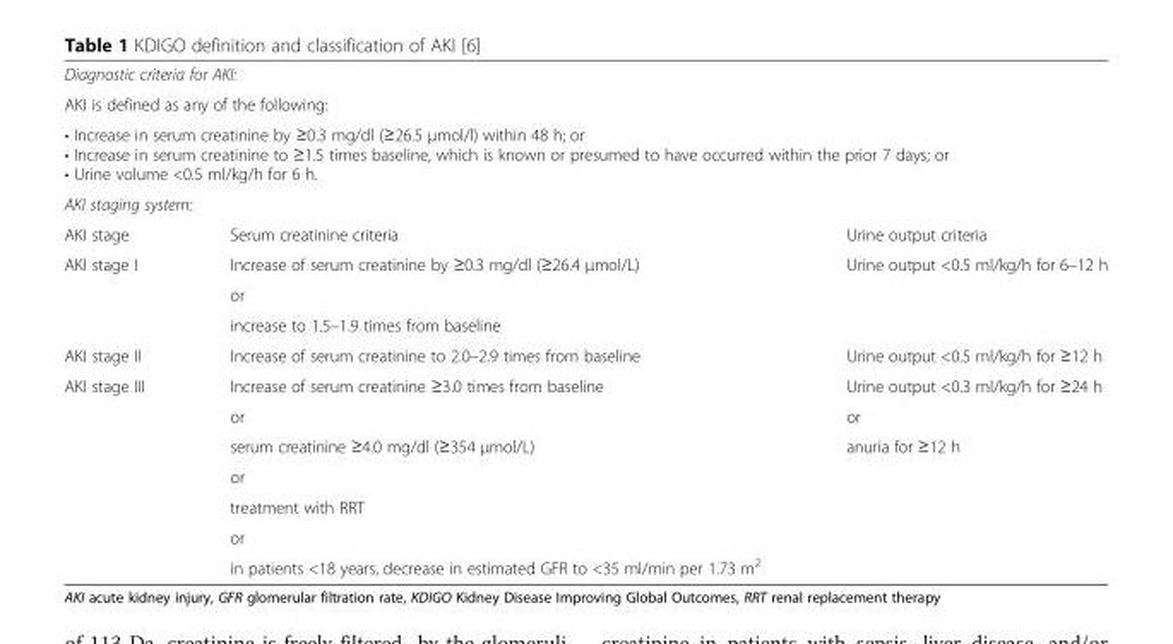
<table><tbody><tr><td colspan="3">Diagnostic criteria for AKI:</td></tr><tr><td colspan="3">AKI is defined as any of the following:</td></tr><tr><td colspan="3">• Increase in serum creatinine by ≥0.3 mg/dl (≥26.5 μmol/l) within 48 h; or • Increase in serum creatinine to ≥1.5 times baseline, which is known or presumed to have occurred within the prior 7 days; or • Urine volume &lt;0.5 ml/kg/h for 6 h.</td></tr><tr><td colspan="3">AKI staging system:</td></tr><tr><td>AKI stage</td><td>Serum creatinine criteria</td><td>Urine output criteria</td></tr><tr><td rowspan="3">AKI stage I</td><td>Increase of serum creatinine by ≥0.3 mg/dl (≥26.4 μmol/L)</td><td rowspan="3">Urine output &lt;0.5 ml/kg/h for 6–12 h</td></tr><tr><td>or</td></tr><tr><td>increase to 1.5–1.9 times from baseline</td></tr><tr><td>AKI stage II</td><td>Increase of serum creatinine to 2.0–2.9 times from baseline</td><td>Urine output &lt;0.5 ml/kg/h for ≥12 h</td></tr><tr><td rowspan="7">AKI stage III</td><td>Increase of serum creatinine ≥3.0 times from baseline</td><td>Urine output &lt;0.3 ml/kg/h for ≥24 h</td></tr><tr><td>or</td><td>or</td></tr><tr><td>serum creatinine ≥4.0 mg/dl (≥354 μmol/L)</td><td rowspan="5">anuria for ≥12 h</td></tr><tr><td>or</td></tr><tr><td>treatment with RRT</td></tr><tr><td>or</td></tr><tr><td>in patients &lt;18 years, decrease in estimated GFR to &lt;35 ml/min per 1.73 m<sup>2</sup></td></tr></tbody></table>